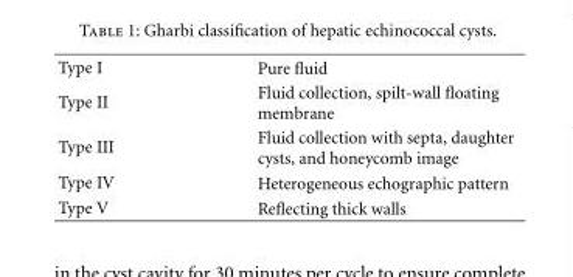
<table><tbody><tr><td>Type I</td><td>Pure fluid</td></tr><tr><td>Type II</td><td>Fluid collection, spilt-wall floating membrane</td></tr><tr><td>Type III</td><td>Fluid collection with septa, daughter cysts, and honeycomb image</td></tr><tr><td>Type IV</td><td>Heterogeneous echographic pattern</td></tr><tr><td>Type V</td><td>Reflecting thick walls</td></tr></tbody></table>